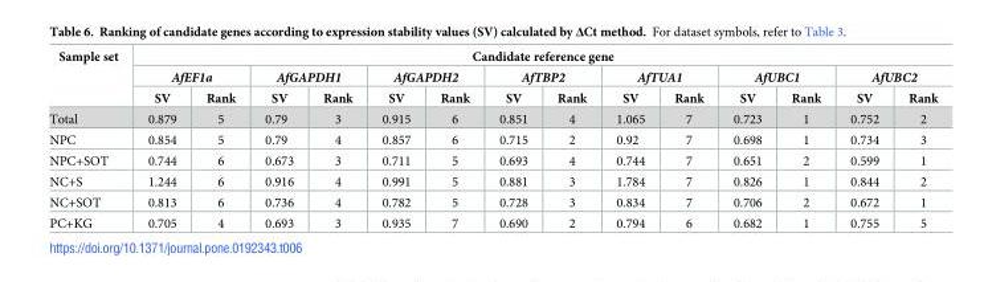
<table><thead><tr><td rowspan="3">Sample set</td><td colspan="14">Candidate reference gene</td></tr><tr><td colspan="2">AfEF1a</td><td colspan="2">AfGAPDH1</td><td colspan="2">AfGAPDH2</td><td colspan="2">AfTBP2</td><td colspan="2">AfTUA1</td><td colspan="2">AfUBC1</td><td colspan="2">AfUBC2</td></tr><tr><td>SV</td><td>Rank</td><td>SV</td><td>Rank</td><td>SV</td><td>Rank</td><td>SV</td><td>Rank</td><td>SV</td><td>Rank</td><td>SV</td><td>Rank</td><td>SV</td><td>Rank</td></tr></thead><tbody><tr><td>Total</td><td>0.879</td><td>5</td><td>0.79</td><td>3</td><td>0.915</td><td>6</td><td>0.851</td><td>4</td><td>1.065</td><td>7</td><td>0.723</td><td>1</td><td>0.752</td><td>2</td></tr><tr><td>NPC</td><td>0.854</td><td>5</td><td>0.79</td><td>4</td><td>0.857</td><td>6</td><td>0.715</td><td>2</td><td>0.92</td><td>7</td><td>0.698</td><td>1</td><td>0.734</td><td>3</td></tr><tr><td>NPC+SOT</td><td>0.744</td><td>6</td><td>0.673</td><td>3</td><td>0.711</td><td>5</td><td>0.693</td><td>4</td><td>0.744</td><td>7</td><td>0.651</td><td>2</td><td>0.599</td><td>1</td></tr><tr><td>NC+S</td><td>1.244</td><td>6</td><td>0.916</td><td>4</td><td>0.991</td><td>5</td><td>0.881</td><td>3</td><td>1.784</td><td>7</td><td>0.826</td><td>1</td><td>0.844</td><td>2</td></tr><tr><td>NC+SOT</td><td>0.813</td><td>6</td><td>0.736</td><td>4</td><td>0.782</td><td>5</td><td>0.728</td><td>3</td><td>0.834</td><td>7</td><td>0.706</td><td>2</td><td>0.672</td><td>1</td></tr><tr><td>PC+KG</td><td>0.705</td><td>4</td><td>0.693</td><td>3</td><td>0.935</td><td>7</td><td>0.690</td><td>2</td><td>0.794</td><td>6</td><td>0.682</td><td>1</td><td>0.755</td><td>5</td></tr></tbody></table>